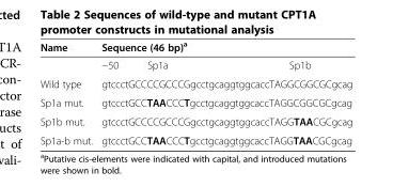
<table><thead><tr><td rowspan="2">Name</td><td colspan="3">Sequence (46 bp)<sup>a</sup></td></tr><tr><td>−50</td><td>Sp1a</td><td>Sp1b</td></tr></thead><tbody><tr><td>Wild type</td><td colspan="3">gtccctGCCCCGCCCGgcctgcaggtggcaccTAGGCGGCGCgcag</td></tr><tr><td>Sp1a mut.</td><td colspan="3">gtccctGCCTAACCCTgcctgcaggtggcaccTAGGCGGCGCgcag</td></tr><tr><td>Sp1b mut.</td><td colspan="3">gtccctGCCCCGCCCGgcctgcaggtggcaccTAGGTAACGCgcag</td></tr><tr><td>Sp1a-b mut.</td><td colspan="3">gtccctGCCTAACCCTgcctgcaggtggcaccTAGGTAACGCgcag</td></tr></tbody></table>